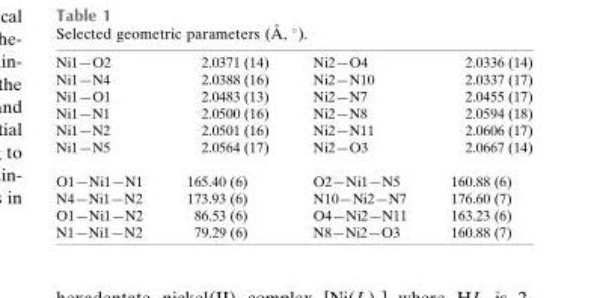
<table><tbody><tr><td>Ni1—O2</td><td>2.0371 (14)</td><td>Ni2—O4</td><td>2.0336 (14)</td></tr><tr><td>Ni1—N4</td><td>2.0388 (16)</td><td>Ni2—N10</td><td>2.0337 (17)</td></tr><tr><td>Ni1—O1</td><td>2.0483 (13)</td><td>Ni2—N7</td><td>2.0455 (17)</td></tr><tr><td>Ni1—N1</td><td>2.0500 (16)</td><td>Ni2—N8</td><td>2.0594 (18)</td></tr><tr><td>Ni1—N2</td><td>2.0501 (16)</td><td>Ni2—N11</td><td>2.0606 (17)</td></tr><tr><td>Ni1—N5</td><td>2.0564 (17)</td><td>Ni2—O3</td><td>2.0667 (14)</td></tr><tr><td>O1—Ni1—N1</td><td>165.40 (6)</td><td>O2—Ni1—N5</td><td>160.88 (6)</td></tr><tr><td>N4—Ni1—N2</td><td>173.93 (6)</td><td>N10—Ni2—N7</td><td>176.60 (7)</td></tr><tr><td>O1—Ni1—N2</td><td>86.53 (6)</td><td>O4—Ni2—N11</td><td>163.23 (6)</td></tr><tr><td>N1—Ni1—N2</td><td>79.29 (6)</td><td>N8—Ni2—O3</td><td>160.88 (7)</td></tr></tbody></table>